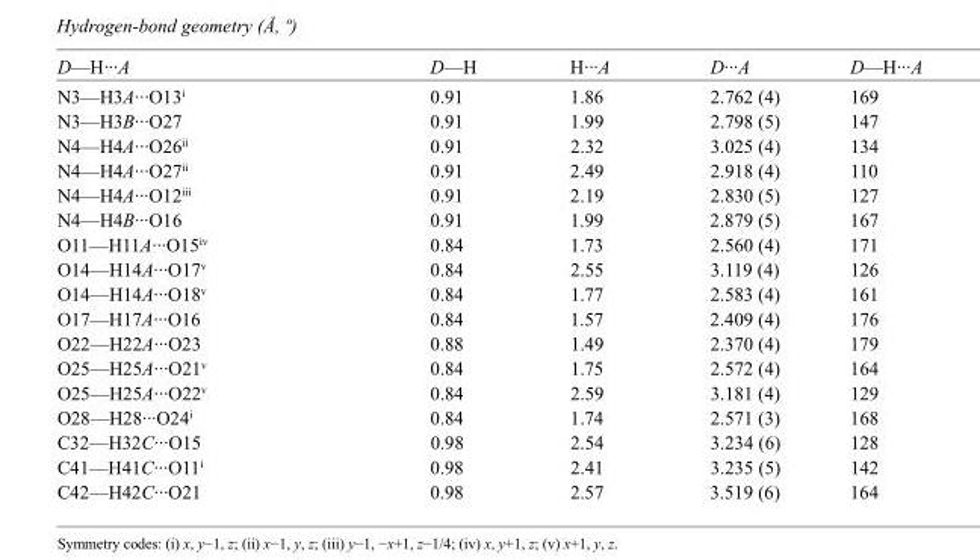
<table><tbody><tr><td>D—H···A</td><td>D—H</td><td>H···A</td><td>D···A</td><td>D—H···A</td></tr><tr><td>N3—H3A···O13<sup>i</sup></td><td>0.91</td><td>1.86</td><td>2.762 (4)</td><td>169</td></tr><tr><td>N3—H3B···O27</td><td>0.91</td><td>1.99</td><td>2.798 (5)</td><td>147</td></tr><tr><td>N4—H4A···O26<sup>ii</sup></td><td>0.91</td><td>2.32</td><td>3.025 (4)</td><td>134</td></tr><tr><td>N4—H4A···O27<sup>ii</sup></td><td>0.91</td><td>2.49</td><td>2.918 (4)</td><td>110</td></tr><tr><td>N4—H4A···O12<sup>iii</sup></td><td>0.91</td><td>2.19</td><td>2.830 (5)</td><td>127</td></tr><tr><td>N4—H4B···O16</td><td>0.91</td><td>1.99</td><td>2.879 (5)</td><td>167</td></tr><tr><td>O11—H11A···O15<sup>iv</sup></td><td>0.84</td><td>1.73</td><td>2.560 (4)</td><td>171</td></tr><tr><td>O14—H14A···O17<sup>v</sup></td><td>0.84</td><td>2.55</td><td>3.119 (4)</td><td>126</td></tr><tr><td>O14—H14A···O18<sup>v</sup></td><td>0.84</td><td>1.77</td><td>2.583 (4)</td><td>161</td></tr><tr><td>O17—H17A···O16</td><td>0.84</td><td>1.57</td><td>2.409 (4)</td><td>176</td></tr><tr><td>O22—H22A···O23</td><td>0.88</td><td>1.49</td><td>2.370 (4)</td><td>179</td></tr><tr><td>O25—H25A···O21<sup>v</sup></td><td>0.84</td><td>1.75</td><td>2.572 (4)</td><td>164</td></tr><tr><td>O25—H25A···O22<sup>v</sup></td><td>0.84</td><td>2.59</td><td>3.181 (4)</td><td>129</td></tr><tr><td>O28—H28···O24<sup>i</sup></td><td>0.84</td><td>1.74</td><td>2.571 (3)</td><td>168</td></tr><tr><td>C32—H32C···O15</td><td>0.98</td><td>2.54</td><td>3.234 (6)</td><td>128</td></tr><tr><td>C41—H41C···O11<sup>i</sup></td><td>0.98</td><td>2.41</td><td>3.235 (5)</td><td>142</td></tr><tr><td>C42—H42C···O21</td><td>0.98</td><td>2.57</td><td>3.519 (6)</td><td>164</td></tr></tbody></table>